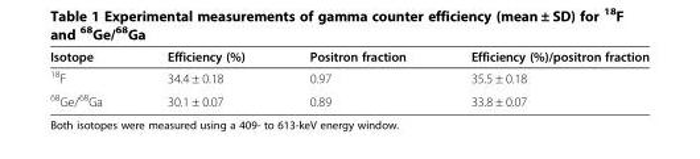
<table><thead><tr><td>Isotope</td><td>Efficiency (%)</td><td>Positron fraction</td><td>Efficiency (%)/positron fraction</td></tr></thead><tbody><tr><td><sup>18</sup>F</td><td>34.4 ± 0.18</td><td>0.97</td><td>35.5 ± 0.18</td></tr><tr><td><sup>68</sup>Ge/<sup>68</sup>Ga</td><td>30.1 ± 0.07</td><td>0.89</td><td>33.8 ± 0.07</td></tr></tbody></table>